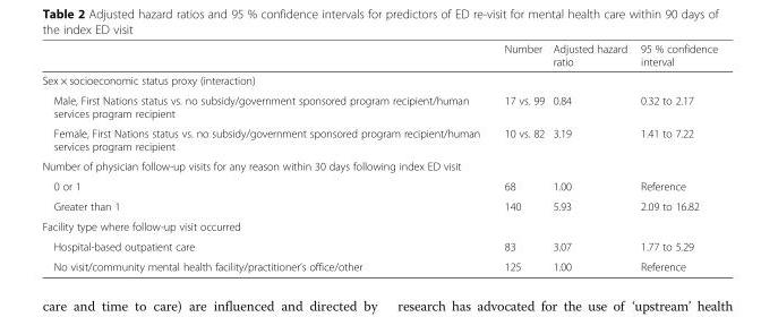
<table><thead><tr><td></td><td>Number</td><td>Adjusted hazard ratio</td><td>95 % confidence interval</td></tr></thead><tbody><tr><td colspan="4">Sex × socioeconomic status proxy (interaction)</td></tr><tr><td>Male, First Nations status vs. no subsidy/government sponsored program recipient/human services program recipient</td><td>17 vs. 99</td><td>0.84</td><td>0.32 to 2.17</td></tr><tr><td>Female, First Nations status vs. no subsidy/government sponsored program recipient/human services program recipient</td><td>10 vs. 82</td><td>3.19</td><td>1.41 to 7.22</td></tr><tr><td colspan="4">Number of physician follow-up visits for any reason within 30 days following index ED visit</td></tr><tr><td>0 or 1</td><td>68</td><td>1.00</td><td>Reference</td></tr><tr><td>Greater than 1</td><td>140</td><td>5.93</td><td>2.09 to 16.82</td></tr><tr><td colspan="4">Facility type where follow-up visit occurred</td></tr><tr><td>Hospital-based outpatient care</td><td>83</td><td>3.07</td><td>1.77 to 5.29</td></tr><tr><td>No visit/community mental health facility/practitioner’s office/other</td><td>125</td><td>1.00</td><td>Reference</td></tr></tbody></table>